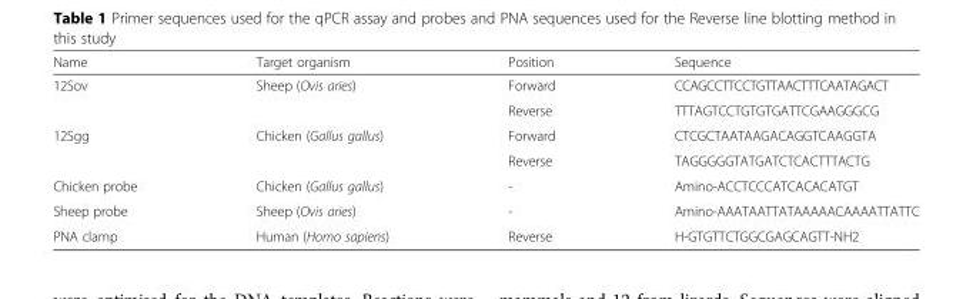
<table><thead><tr><td>Name</td><td>Target organism</td><td>Position</td><td>Sequence</td></tr></thead><tbody><tr><td rowspan="2">12Sov</td><td rowspan="2">Sheep (Ovis aries)</td><td>Forward</td><td>CCAGCCTTCCTGTTAACTTTCAATAGACT</td></tr><tr><td>Reverse</td><td>TTTAGTCCTGTGTGATTCGAAGGGCG</td></tr><tr><td rowspan="2">12Sgg</td><td rowspan="2">Chicken (Gallus gallus)</td><td>Forward</td><td>CTCGCTAATAAGACAGGTCAAGGTA</td></tr><tr><td>Reverse</td><td>TAGGGGGTATGATCTCACTTTACTG</td></tr><tr><td>Chicken probe</td><td>Chicken (Gallus gallus)</td><td>-</td><td>Amino-ACCTCCCATCACACATGT</td></tr><tr><td>Sheep probe</td><td>Sheep (Ovis aries)</td><td>-</td><td>Amino-AAATAATTATAAAAACAAAATTATTC</td></tr><tr><td>PNA clamp</td><td>Human (Homo sapiens)</td><td>Reverse</td><td>H-GTGTTCTGGCGAGCAGTT-NH2</td></tr></tbody></table>